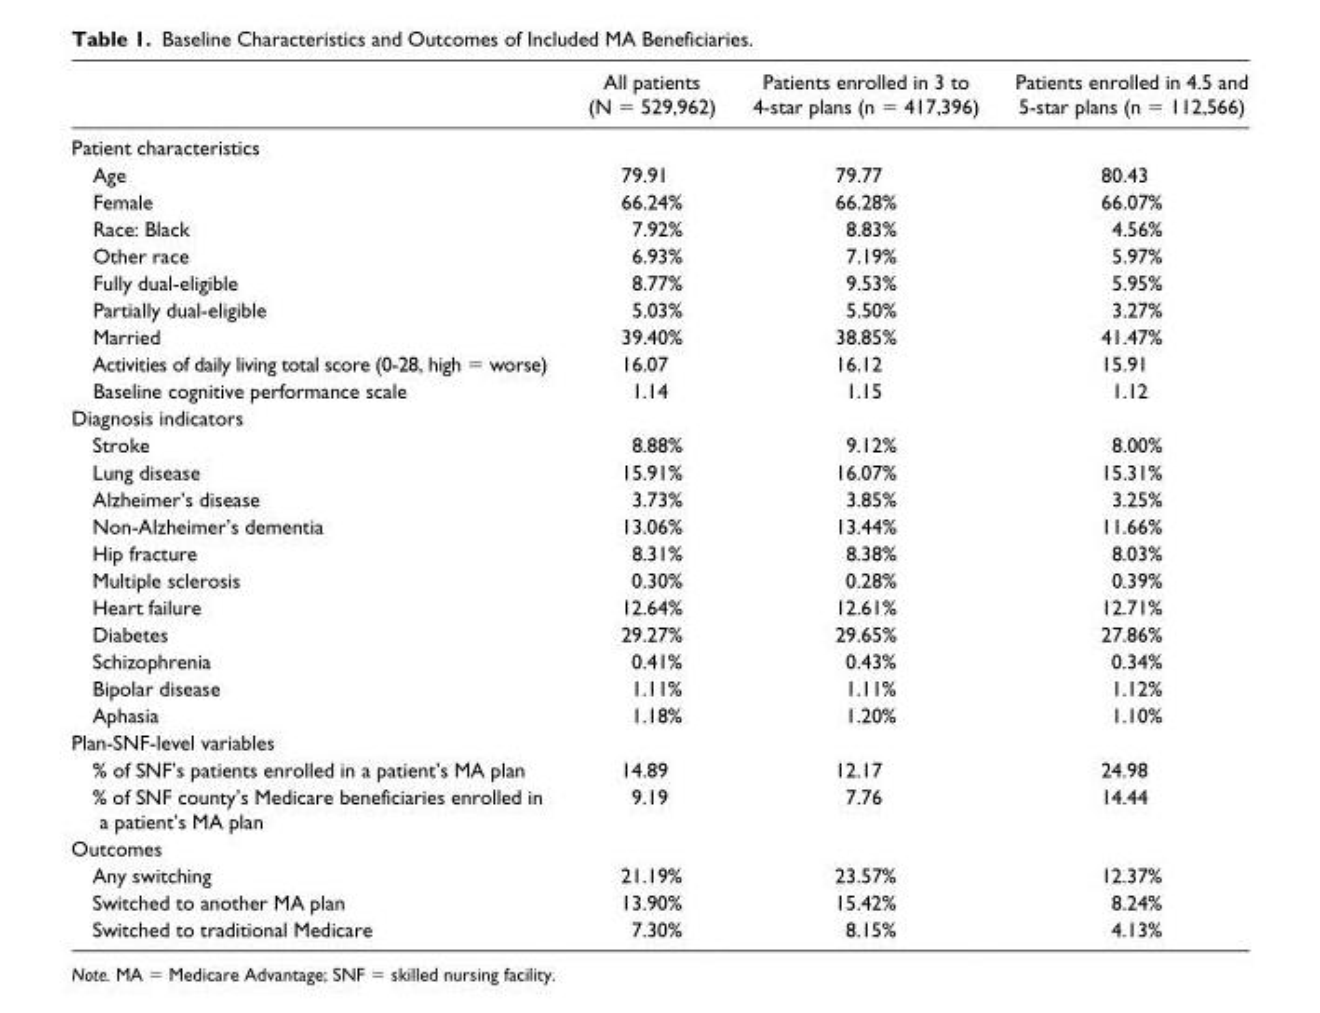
<table><thead><tr><td></td><td>All patients (N = 529,962)</td><td>Patients enrolled in 3 to 4-star plans (n = 417,396)</td><td>Patients enrolled in 4.5 and 5-star plans (n = 112,566)</td></tr></thead><tbody><tr><td colspan="4">Patient characteristics</td></tr><tr><td>Age</td><td>79.91</td><td>79.77</td><td>80.43</td></tr><tr><td>Female</td><td>66.24%</td><td>66.28%</td><td>66.07%</td></tr><tr><td>Race: Black</td><td>7.92%</td><td>8.83%</td><td>4.56%</td></tr><tr><td>Other race</td><td>6.93%</td><td>7.19%</td><td>5.97%</td></tr><tr><td>Fully dual-eligible</td><td>8.77%</td><td>9.53%</td><td>5.95%</td></tr><tr><td>Partially dual-eligible</td><td>5.03%</td><td>5.50%</td><td>3.27%</td></tr><tr><td>Married</td><td>39.40%</td><td>38.85%</td><td>41.47%</td></tr><tr><td>Activities of daily living total score (0-28, high = worse)</td><td>16.07</td><td>16.12</td><td>15.91</td></tr><tr><td>Baseline cognitive performance scale</td><td>1.14</td><td>1.15</td><td>1.12</td></tr><tr><td colspan="4">Diagnosis indicators</td></tr><tr><td>Stroke</td><td>8.88%</td><td>9.12%</td><td>8.00%</td></tr><tr><td>Lung disease</td><td>15.91%</td><td>16.07%</td><td>15.31%</td></tr><tr><td>Alzheimer’s disease</td><td>3.73%</td><td>3.85%</td><td>3.25%</td></tr><tr><td>Non-Alzheimer’s dementia</td><td>13.06%</td><td>13.44%</td><td>11.66%</td></tr><tr><td>Hip fracture</td><td>8.31%</td><td>8.38%</td><td>8.03%</td></tr><tr><td>Multiple sclerosis</td><td>0.30%</td><td>0.28%</td><td>0.39%</td></tr><tr><td>Heart failure</td><td>12.64%</td><td>12.61%</td><td>12.71%</td></tr><tr><td>Diabetes</td><td>29.27%</td><td>29.65%</td><td>27.86%</td></tr><tr><td>Schizophrenia</td><td>0.41%</td><td>0.43%</td><td>0.34%</td></tr><tr><td>Bipolar disease</td><td>1.11%</td><td>1.11%</td><td>1.12%</td></tr><tr><td>Aphasia</td><td>1.18%</td><td>1.20%</td><td>1.10%</td></tr><tr><td colspan="4">Plan-SNF-level variables</td></tr><tr><td>% of SNF’s patients enrolled in a patient’s MA plan</td><td>14.89</td><td>12.17</td><td>24.98</td></tr><tr><td>% of SNF county’s Medicare beneficiaries enrolled in a patient’s MA plan</td><td>9.19</td><td>7.76</td><td>14.44</td></tr><tr><td colspan="4">Outcomes</td></tr><tr><td>Any switching</td><td>21.19%</td><td>23.57%</td><td>12.37%</td></tr><tr><td>Switched to another MA plan</td><td>13.90%</td><td>15.42%</td><td>8.24%</td></tr><tr><td>Switched to traditional Medicare</td><td>7.30%</td><td>8.15%</td><td>4.13%</td></tr></tbody></table>